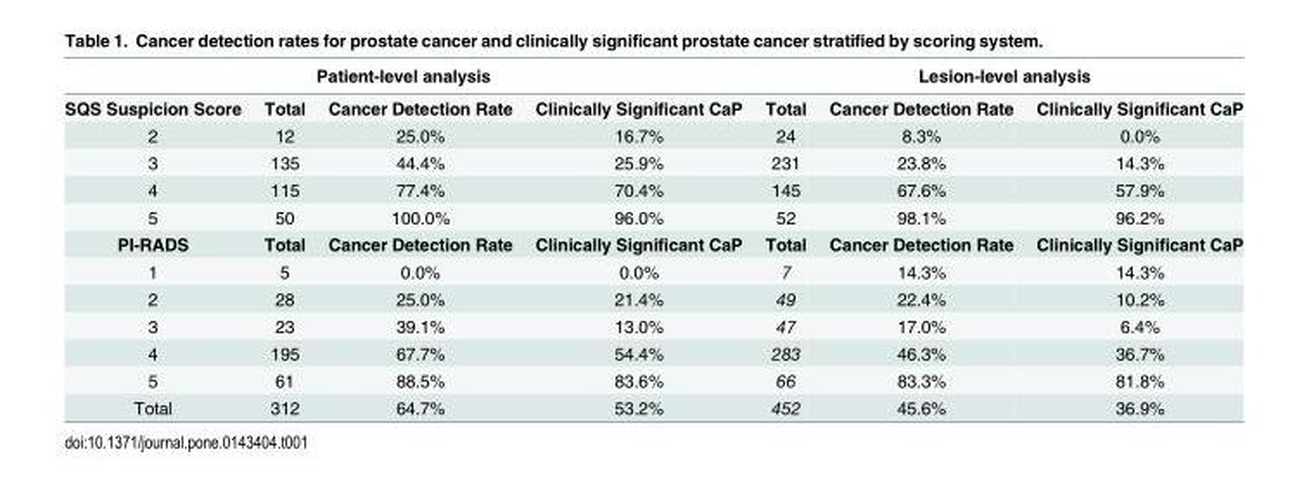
<table><thead><tr><td colspan="4">Patient-level analysis</td><td colspan="3">Lesion-level analysis</td></tr><tr><td>SQS Suspicion Score</td><td>Total</td><td>Cancer Detection Rate</td><td>Clinically Significant CaP</td><td>Total</td><td>Cancer Detection Rate</td><td>Clinically Significant CaP</td></tr></thead><tbody><tr><td>2</td><td>12</td><td>25.0%</td><td>16.7%</td><td>24</td><td>8.3%</td><td>0.0%</td></tr><tr><td>3</td><td>135</td><td>44.4%</td><td>25.9%</td><td>231</td><td>23.8%</td><td>14.3%</td></tr><tr><td>4</td><td>115</td><td>77.4%</td><td>70.4%</td><td>145</td><td>67.6%</td><td>57.9%</td></tr><tr><td>5</td><td>50</td><td>100.0%</td><td>96.0%</td><td>52</td><td>98.1%</td><td>96.2%</td></tr><tr><td>PI-RADS</td><td>Total</td><td>Cancer Detection Rate</td><td>Clinically Significant CaP</td><td>Total</td><td>Cancer Detection Rate</td><td>Clinically Significant CaP</td></tr><tr><td>1</td><td>5</td><td>0.0%</td><td>0.0%</td><td>7</td><td>14.3%</td><td>14.3%</td></tr><tr><td>2</td><td>28</td><td>25.0%</td><td>21.4%</td><td>49</td><td>22.4%</td><td>10.2%</td></tr><tr><td>3</td><td>23</td><td>39.1%</td><td>13.0%</td><td>47</td><td>17.0%</td><td>6.4%</td></tr><tr><td>4</td><td>195</td><td>67.7%</td><td>54.4%</td><td>283</td><td>46.3%</td><td>36.7%</td></tr><tr><td>5</td><td>61</td><td>88.5%</td><td>83.6%</td><td>66</td><td>83.3%</td><td>81.8%</td></tr><tr><td>Total</td><td>312</td><td>64.7%</td><td>53.2%</td><td>452</td><td>45.6%</td><td>36.9%</td></tr></tbody></table>